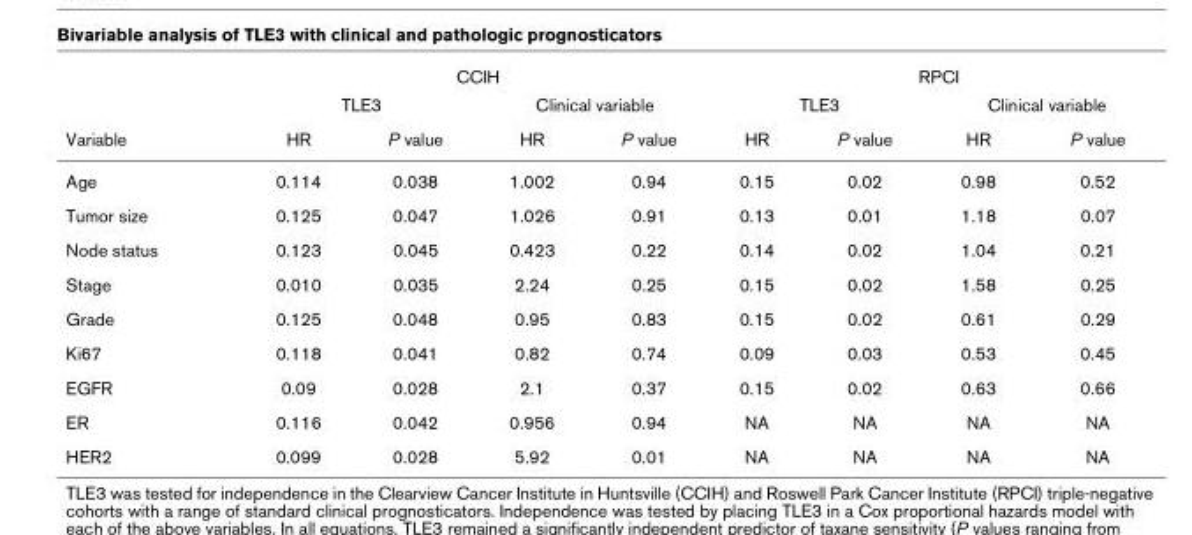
<table><thead><tr><td rowspan="3">Variable</td><td colspan="4">CCIH</td><td colspan="4">RPCI</td></tr><tr><td colspan="2">TLE3</td><td colspan="2">Clinical variable</td><td colspan="2">TLE3</td><td colspan="2">Clinical variable</td></tr><tr><td>HR</td><td>P value</td><td>HR</td><td>P value</td><td>HR</td><td>P value</td><td>HR</td><td>P value</td></tr></thead><tbody><tr><td>Age</td><td>0.114</td><td>0.038</td><td>1.002</td><td>0.94</td><td>0.15</td><td>0.02</td><td>0.98</td><td>0.52</td></tr><tr><td>Tumor size</td><td>0.125</td><td>0.047</td><td>1.026</td><td>0.91</td><td>0.13</td><td>0.01</td><td>1.18</td><td>0.07</td></tr><tr><td>Node status</td><td>0.123</td><td>0.045</td><td>0.423</td><td>0.22</td><td>0.14</td><td>0.02</td><td>1.04</td><td>0.21</td></tr><tr><td>Stage</td><td>0.010</td><td>0.035</td><td>2.24</td><td>0.25</td><td>0.15</td><td>0.02</td><td>1.58</td><td>0.25</td></tr><tr><td>Grade</td><td>0.125</td><td>0.048</td><td>0.95</td><td>0.83</td><td>0.15</td><td>0.02</td><td>0.61</td><td>0.29</td></tr><tr><td>Ki67</td><td>0.118</td><td>0.041</td><td>0.82</td><td>0.74</td><td>0.09</td><td>0.03</td><td>0.53</td><td>0.45</td></tr><tr><td>EGFR</td><td>0.09</td><td>0.028</td><td>2.1</td><td>0.37</td><td>0.15</td><td>0.02</td><td>0.63</td><td>0.66</td></tr><tr><td>ER</td><td>0.116</td><td>0.042</td><td>0.956</td><td>0.94</td><td>NA</td><td>NA</td><td>NA</td><td>NA</td></tr><tr><td>HER2</td><td>0.099</td><td>0.028</td><td>5.92</td><td>0.01</td><td>NA</td><td>NA</td><td>NA</td><td>NA</td></tr></tbody></table>